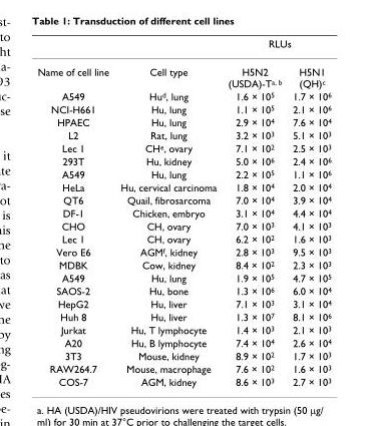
<table><thead><tr><td rowspan="2">Name of cell line</td><td rowspan="2">Cell type</td><td colspan="2">RLUs</td></tr><tr><td>H5N2 (USDA)-T<sup>a, b</sup></td><td>H5N1 (QH)<sup>c</sup></td></tr></thead><tbody><tr><td>A549</td><td>Hu<sup>d</sup>, lung</td><td>1.6 × 10<sup>5</sup></td><td>1.7 × 10<sup>6</sup></td></tr><tr><td>NCI-H661</td><td>Hu, lung</td><td>1.1 × 10<sup>5</sup></td><td>2.1 × 10<sup>6</sup></td></tr><tr><td>HPAEC</td><td>Hu, lung</td><td>2.9 × 10<sup>4</sup></td><td>7.6 × 10<sup>4</sup></td></tr><tr><td>L2</td><td>Rat, lung</td><td>3.2 × 10<sup>3</sup></td><td>5.1 × 10<sup>3</sup></td></tr><tr><td>Lec 1</td><td>CH<sup>e</sup>, ovary</td><td>7.1 × 10<sup>2</sup></td><td>2.5 × 10<sup>3</sup></td></tr><tr><td>293T</td><td>Hu, kidney</td><td>5.0 × 10<sup>6</sup></td><td>2.4 × 10<sup>6</sup></td></tr><tr><td>A549</td><td>Hu, lung</td><td>2.2 × 10<sup>5</sup></td><td>1.1 × 10<sup>6</sup></td></tr><tr><td>HeLa</td><td>Hu, cervical carcinoma</td><td>1.8 × 10<sup>4</sup></td><td>2.0 × 10<sup>4</sup></td></tr><tr><td>QT6</td><td>Quail, fibrosarcoma</td><td>7.0 × 10<sup>4</sup></td><td>3.9 × 10<sup>4</sup></td></tr><tr><td>DF-1</td><td>Chicken, embryo</td><td>3.1 × 10<sup>4</sup></td><td>4.4 × 10<sup>4</sup></td></tr><tr><td>CHO</td><td>CH, ovary</td><td>7.0 × 10<sup>3</sup></td><td>4.1 × 10<sup>3</sup></td></tr><tr><td>Lec 1</td><td>CH, ovary</td><td>6.2 × 10<sup>2</sup></td><td>1.6 × 10<sup>3</sup></td></tr><tr><td>Vero E6</td><td>AGM<sup>f</sup>, kidney</td><td>2.8 × 10<sup>3</sup></td><td>9.5 × 10<sup>3</sup></td></tr><tr><td>MDBK</td><td>Cow, kidney</td><td>8.4 × 10<sup>2</sup></td><td>2.3 × 10<sup>3</sup></td></tr><tr><td>A549</td><td>Hu, lung</td><td>1.9 × 10<sup>5</sup></td><td>4.7 × 10<sup>5</sup></td></tr><tr><td>SAOS-2</td><td>Hu, bone</td><td>1.3 × 10<sup>6</sup></td><td>6.0 × 10<sup>4</sup></td></tr><tr><td>HepG2</td><td>Hu, liver</td><td>7.1 × 10<sup>3</sup></td><td>3.1 × 10<sup>4</sup></td></tr><tr><td>Huh 8</td><td>Hu, liver</td><td>1.3 × 10<sup>7</sup></td><td>8.1 × 10<sup>6</sup></td></tr><tr><td>Jurkat</td><td>Hu, T lymphocyte</td><td>1.4 × 10<sup>3</sup></td><td>2.1 × 10<sup>3</sup></td></tr><tr><td>A20</td><td>Hu, B lymphocyte</td><td>7.4 × 10<sup>4</sup></td><td>2.6 × 10<sup>4</sup></td></tr><tr><td>3T3</td><td>Mouse, kidney</td><td>8.9 × 10<sup>2</sup></td><td>1.7 × 10<sup>3</sup></td></tr><tr><td>RAW264.7</td><td>Mouse, macrophage</td><td>7.6 × 10<sup>2</sup></td><td>1.6 × 10<sup>3</sup></td></tr><tr><td>COS-7</td><td>AGM, kidney</td><td>8.6 × 10<sup>3</sup></td><td>2.7 × 10<sup>3</sup></td></tr></tbody></table>